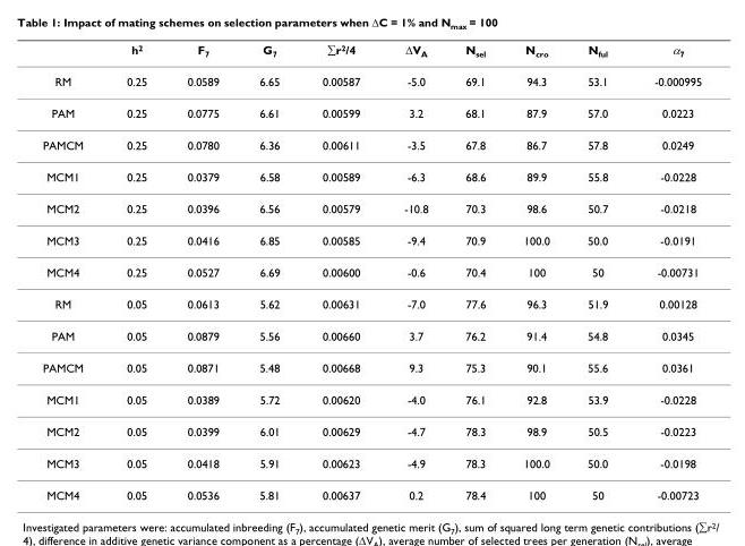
<table><thead><tr><td></td><td>h<sup>2</sup></td><td>F<sub>7</sub></td><td>G<sub>7</sub></td><td>∑r<sup>2</sup>/4</td><td>ΔV<sub>A</sub></td><td>N<sub>sel</sub></td><td>N<sub>cro</sub></td><td>N<sub>ful</sub></td><td>α<sub>7</sub></td></tr></thead><tbody><tr><td>RM</td><td>0.25</td><td>0.0589</td><td>6.65</td><td>0.00587</td><td>-5.0</td><td>69.1</td><td>94.3</td><td>53.1</td><td>-0.000995</td></tr><tr><td>PAM</td><td>0.25</td><td>0.0775</td><td>6.61</td><td>0.00599</td><td>3.2</td><td>68.1</td><td>87.9</td><td>57.0</td><td>0.0223</td></tr><tr><td>PAMCM</td><td>0.25</td><td>0.0780</td><td>6.36</td><td>0.00611</td><td>-3.5</td><td>67.8</td><td>86.7</td><td>57.8</td><td>0.0249</td></tr><tr><td>MCM1</td><td>0.25</td><td>0.0379</td><td>6.58</td><td>0.00589</td><td>-6.3</td><td>68.6</td><td>89.9</td><td>55.8</td><td>-0.0228</td></tr><tr><td>MCM2</td><td>0.25</td><td>0.0396</td><td>6.56</td><td>0.00579</td><td>-10.8</td><td>70.3</td><td>98.6</td><td>50.7</td><td>-0.0218</td></tr><tr><td>MCM3</td><td>0.25</td><td>0.0416</td><td>6.85</td><td>0.00585</td><td>-9.4</td><td>70.9</td><td>100.0</td><td>50.0</td><td>-0.0191</td></tr><tr><td>MCM4</td><td>0.25</td><td>0.0527</td><td>6.69</td><td>0.00600</td><td>-0.6</td><td>70.4</td><td>100</td><td>50</td><td>-0.00731</td></tr><tr><td>RM</td><td>0.05</td><td>0.0613</td><td>5.62</td><td>0.00631</td><td>-7.0</td><td>77.6</td><td>96.3</td><td>51.9</td><td>0.00128</td></tr><tr><td>PAM</td><td>0.05</td><td>0.0879</td><td>5.56</td><td>0.00660</td><td>3.7</td><td>76.2</td><td>91.4</td><td>54.8</td><td>0.0345</td></tr><tr><td>PAMCM</td><td>0.05</td><td>0.0871</td><td>5.48</td><td>0.00668</td><td>9.3</td><td>75.3</td><td>90.1</td><td>55.6</td><td>0.0361</td></tr><tr><td>MCM1</td><td>0.05</td><td>0.0389</td><td>5.72</td><td>0.00620</td><td>-4.0</td><td>76.1</td><td>92.8</td><td>53.9</td><td>-0.0228</td></tr><tr><td>MCM2</td><td>0.05</td><td>0.0399</td><td>6.01</td><td>0.00629</td><td>-4.7</td><td>78.3</td><td>98.9</td><td>50.5</td><td>-0.0223</td></tr><tr><td>MCM3</td><td>0.05</td><td>0.0418</td><td>5.91</td><td>0.00623</td><td>-4.9</td><td>78.3</td><td>100.0</td><td>50.0</td><td>-0.0198</td></tr><tr><td>MCM4</td><td>0.05</td><td>0.0536</td><td>5.81</td><td>0.00637</td><td>0.2</td><td>78.4</td><td>100</td><td>50</td><td>-0.00723</td></tr></tbody></table>